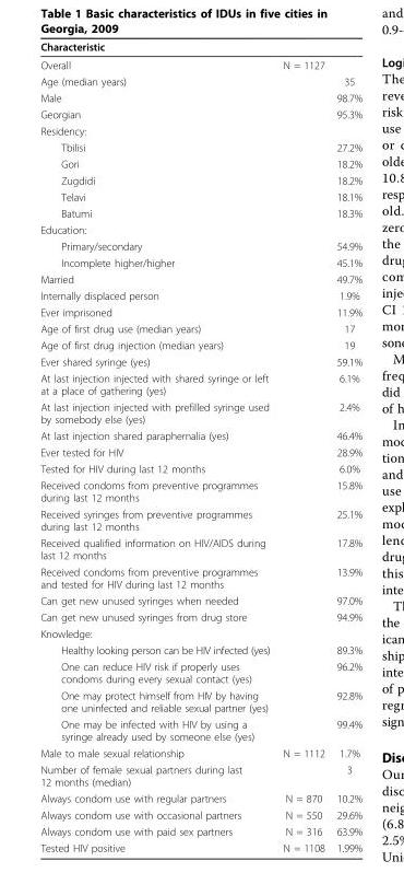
<table><thead><tr><td>Characteristic</td><td></td><td></td></tr></thead><tbody><tr><td>Overall</td><td>N = 1127</td><td></td></tr><tr><td>Age (median years)</td><td></td><td>35</td></tr><tr><td>Male</td><td></td><td>98.7%</td></tr><tr><td>Georgian</td><td></td><td>95.3%</td></tr><tr><td colspan="3">Residency:</td></tr><tr><td>Tbilisi</td><td></td><td>27.2%</td></tr><tr><td>Gori</td><td></td><td>18.2%</td></tr><tr><td>Zugdidi</td><td></td><td>18.2%</td></tr><tr><td>Telavi</td><td></td><td>18.1%</td></tr><tr><td>Batumi</td><td></td><td>18.3%</td></tr><tr><td colspan="3">Education:</td></tr><tr><td>Primary/secondary</td><td></td><td>54.9%</td></tr><tr><td>Incomplete higher/higher</td><td></td><td>45.1%</td></tr><tr><td>Married</td><td></td><td>49.7%</td></tr><tr><td>Internally displaced person</td><td></td><td>1.9%</td></tr><tr><td>Ever imprisoned</td><td></td><td>11.9%</td></tr><tr><td>Age of first drug use (median years)</td><td></td><td>17</td></tr><tr><td>Age of first drug injection (median years)</td><td></td><td>19</td></tr><tr><td>Ever shared syringe (yes)</td><td></td><td>59.1%</td></tr><tr><td>At last injection injected with shared syringe or left at a place of gathering (yes)</td><td></td><td>6.1%</td></tr><tr><td>At last injection injected with prefilled syringe used by somebody else (yes)</td><td></td><td>2.4%</td></tr><tr><td>At last injection shared paraphernalia (yes)</td><td></td><td>46.4%</td></tr><tr><td>Ever tested for HIV</td><td></td><td>28.9%</td></tr><tr><td>Tested for HIV during last 12 months</td><td></td><td>6.0%</td></tr><tr><td>Received condoms from preventive programmes during last 12 months</td><td></td><td>15.8%</td></tr><tr><td>Received syringes from preventive programmes during last 12 months</td><td></td><td>25.1%</td></tr><tr><td>Received qualified information on HIV/AIDS during last 12 months</td><td></td><td>17.8%</td></tr><tr><td>Received condoms from preventive programmes and tested for HIV during last 12 months</td><td></td><td>13.9%</td></tr><tr><td>Can get new unused syringes when needed</td><td></td><td>97.0%</td></tr><tr><td>Can get new unused syringes from drug store</td><td></td><td>94.9%</td></tr><tr><td colspan="3">Knowledge:</td></tr><tr><td>Healthy looking person can be HIV infected (yes)</td><td></td><td>89.3%</td></tr><tr><td>One can reduce HIV risk if properly uses condoms during every sexual contact (yes)</td><td></td><td>96.2%</td></tr><tr><td>One may protect himself from HIV by having one uninfected and reliable sexual partner (yes)</td><td></td><td>92.8%</td></tr><tr><td>One may be infected with HIV by using a syringe already used by someone else (yes)</td><td></td><td>99.4%</td></tr><tr><td>Male to male sexual relationship</td><td>N = 1112</td><td>1.7%</td></tr><tr><td>Number of female sexual partners during last 12 months (median)</td><td></td><td>3</td></tr><tr><td>Always condom use with regular partners</td><td>N = 870</td><td>10.2%</td></tr><tr><td>Always condom use with occasional partners</td><td>N = 550</td><td>29.6%</td></tr><tr><td>Always condom use with paid sex partners</td><td>N = 316</td><td>63.9%</td></tr><tr><td>Tested HIV positive</td><td>N = 1108</td><td>1.99%</td></tr></tbody></table>